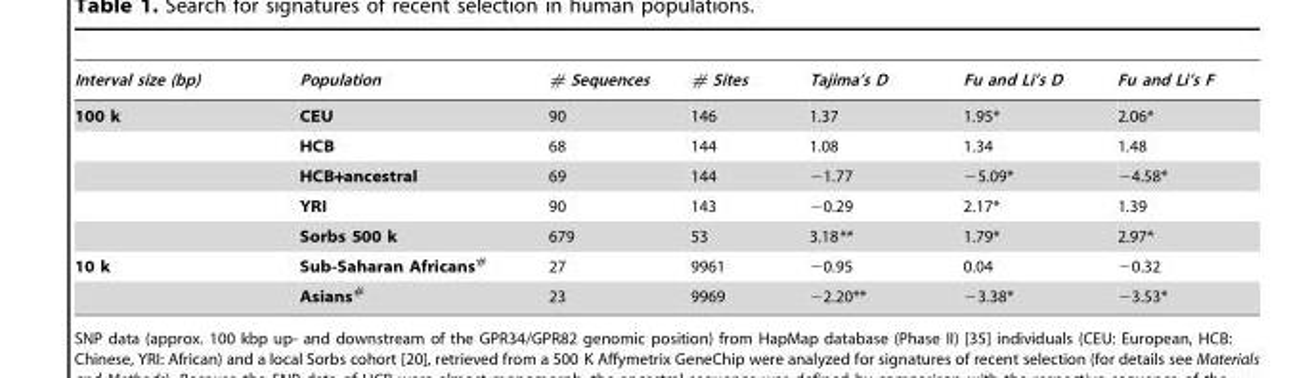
<table><thead><tr><td>Interval size (bp)</td><td>Population</td><td># Sequences</td><td># Sites</td><td>Tajima’s D</td><td>Fu and Li’s D</td><td>Fu and Li’s F</td></tr></thead><tbody><tr><td rowspan="5">100 k</td><td>CEU</td><td>90</td><td>146</td><td>1.37</td><td>1.95*</td><td>2.06*</td></tr><tr><td>HCB</td><td>68</td><td>144</td><td>1.08</td><td>1.34</td><td>1.48</td></tr><tr><td>HCB+ancestral</td><td>69</td><td>144</td><td>−1.77</td><td>−5.09*</td><td>−4.58*</td></tr><tr><td>YRI</td><td>90</td><td>143</td><td>−0.29</td><td>2.17*</td><td>1.39</td></tr><tr><td>Sorbs 500 k</td><td>679</td><td>53</td><td>3.18**</td><td>1.79*</td><td>2.97*</td></tr><tr><td rowspan="2">10 k</td><td>Sub-Saharan Africans#</td><td>27</td><td>9961</td><td>−0.95</td><td>0.04</td><td>−0.32</td></tr><tr><td>Asians#</td><td>23</td><td>9969</td><td>−2.20**</td><td>−3.38*</td><td>−3.53*</td></tr></tbody></table>